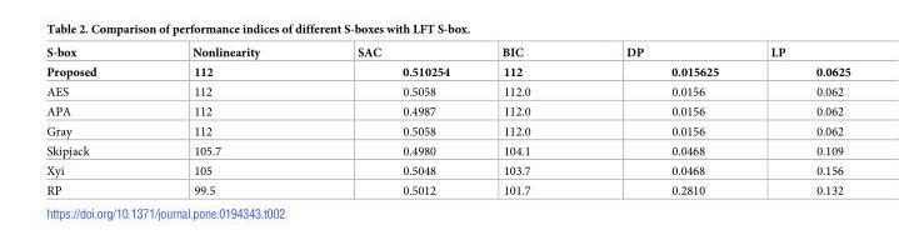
<table><thead><tr><td>S-box</td><td>Nonlinearity</td><td>SAC</td><td>BIC</td><td>DP</td><td>LP</td></tr></thead><tbody><tr><td>Proposed</td><td>112</td><td>0.510254</td><td>112</td><td>0.015625</td><td>0.0625</td></tr><tr><td>AES</td><td>112</td><td>0.5058</td><td>112.0</td><td>0.0156</td><td>0.062</td></tr><tr><td>APA</td><td>112</td><td>0.4987</td><td>112.0</td><td>0.0156</td><td>0.062</td></tr><tr><td>Gray</td><td>112</td><td>0.5058</td><td>112.0</td><td>0.0156</td><td>0.062</td></tr><tr><td>Skipjack</td><td>105.7</td><td>0.4980</td><td>104.1</td><td>0.0468</td><td>0.109</td></tr><tr><td>Xyi</td><td>105</td><td>0.5048</td><td>103.7</td><td>0.0468</td><td>0.156</td></tr><tr><td>RP</td><td>99.5</td><td>0.5012</td><td>101.7</td><td>0.2810</td><td>0.132</td></tr></tbody></table>